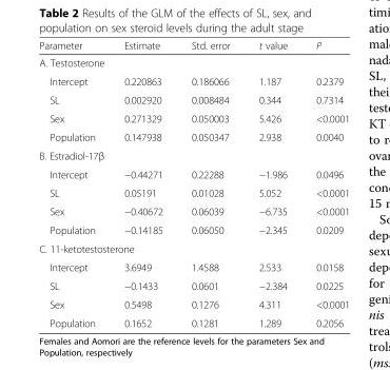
<table><thead><tr><td>Parameter</td><td>Estimate</td><td>Std. error</td><td>t value</td><td>P</td></tr></thead><tbody><tr><td colspan="5">A. Testosterone</td></tr><tr><td>Intercept</td><td>0.220863</td><td>0.186066</td><td>1.187</td><td>0.2379</td></tr><tr><td>SL</td><td>0.002920</td><td>0.008484</td><td>0.344</td><td>0.7314</td></tr><tr><td>Sex</td><td>0.271329</td><td>0.050003</td><td>5.426</td><td>&lt;0.0001</td></tr><tr><td>Population</td><td>0.147938</td><td>0.050347</td><td>2.938</td><td>0.0040</td></tr><tr><td colspan="5">B. Estradiol-17β</td></tr><tr><td>Intercept</td><td>−0.44271</td><td>0.22288</td><td>−1.986</td><td>0.0496</td></tr><tr><td>SL</td><td>0.05191</td><td>0.01028</td><td>5.052</td><td>&lt;0.0001</td></tr><tr><td>Sex</td><td>−0.40672</td><td>0.06039</td><td>−6.735</td><td>&lt;0.0001</td></tr><tr><td>Population</td><td>−0.14185</td><td>0.06050</td><td>−2.345</td><td>0.0209</td></tr><tr><td colspan="5">C. 11-ketotestosterone</td></tr><tr><td>Intercept</td><td>3.6949</td><td>1.4588</td><td>2.533</td><td>0.0158</td></tr><tr><td>SL</td><td>−0.1433</td><td>0.0601</td><td>−2.384</td><td>0.0225</td></tr><tr><td>Sex</td><td>0.5498</td><td>0.1276</td><td>4.311</td><td>&lt;0.0001</td></tr><tr><td>Population</td><td>0.1652</td><td>0.1281</td><td>1.289</td><td>0.2056</td></tr></tbody></table>